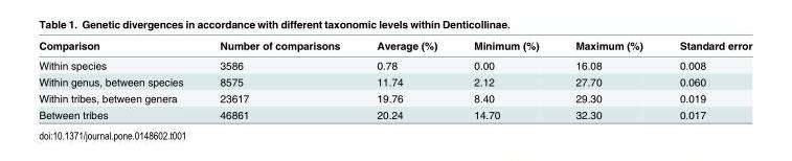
<table><thead><tr><td>Comparison</td><td>Number of comparisons</td><td>Average (%)</td><td>Minimum (%)</td><td>Maximum (%)</td><td>Standard error</td></tr></thead><tbody><tr><td>Within species</td><td>3586</td><td>0.78</td><td>0.00</td><td>16.08</td><td>0.008</td></tr><tr><td>Within genus, between species</td><td>8575</td><td>11.74</td><td>2.12</td><td>27.70</td><td>0.060</td></tr><tr><td>Within tribes, between genera</td><td>23617</td><td>19.76</td><td>8.40</td><td>29.30</td><td>0.019</td></tr><tr><td>Between tribes</td><td>46861</td><td>20.24</td><td>14.70</td><td>32.30</td><td>0.017</td></tr></tbody></table>